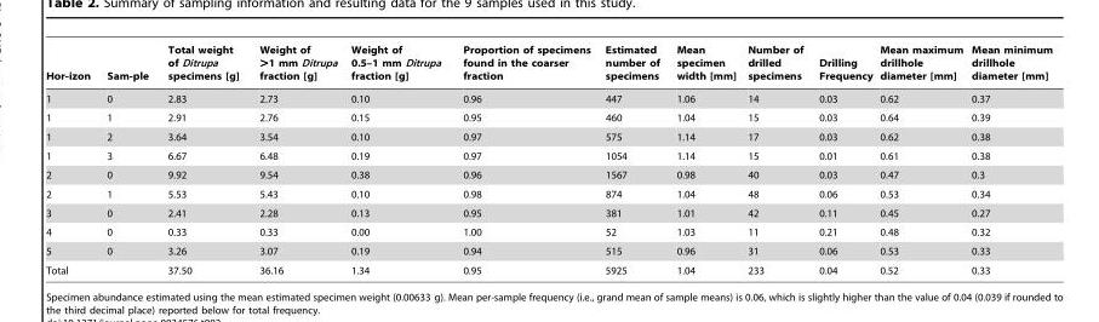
<table><thead><tr><td>Hor-izon</td><td>Sam-ple</td><td>Total weight of Ditrupa specimens [g]</td><td>Weight of &gt;1 mm Ditrupa fraction [g]</td><td>Weight of 0.5–1 mm Ditrupa fraction [g]</td><td>Proportion of specimens found in the coarser fraction</td><td>Estimated number of specimens</td><td>Mean specimen width [mm]</td><td>Number of drilled specimens</td><td>Drilling Frequency</td><td>Mean maximum drillhole diameter [mm]</td><td>Mean minimum drillhole diameter [mm]</td></tr></thead><tbody><tr><td>1</td><td>0</td><td>2.83</td><td>2.73</td><td>0.10</td><td>0.96</td><td>447</td><td>1.06</td><td>14</td><td>0.03</td><td>0.62</td><td>0.37</td></tr><tr><td>1</td><td>1</td><td>2.91</td><td>2.76</td><td>0.15</td><td>0.95</td><td>460</td><td>1.04</td><td>15</td><td>0.03</td><td>0.64</td><td>0.39</td></tr><tr><td>1</td><td>2</td><td>3.64</td><td>3.54</td><td>0.10</td><td>0.97</td><td>575</td><td>1.14</td><td>17</td><td>0.03</td><td>0.62</td><td>0.38</td></tr><tr><td>1</td><td>3</td><td>6.67</td><td>6.48</td><td>0.19</td><td>0.97</td><td>1054</td><td>1.14</td><td>15</td><td>0.01</td><td>0.61</td><td>0.38</td></tr><tr><td>2</td><td>0</td><td>9.92</td><td>9.54</td><td>0.38</td><td>0.96</td><td>1567</td><td>0.98</td><td>40</td><td>0.03</td><td>0.47</td><td>0.3</td></tr><tr><td>2</td><td>1</td><td>5.53</td><td>5.43</td><td>0.10</td><td>0.98</td><td>874</td><td>1.04</td><td>48</td><td>0.06</td><td>0.53</td><td>0.34</td></tr><tr><td>3</td><td>0</td><td>2.41</td><td>2.28</td><td>0.13</td><td>0.95</td><td>381</td><td>1.01</td><td>42</td><td>0.11</td><td>0.45</td><td>0.27</td></tr><tr><td>4</td><td>0</td><td>0.33</td><td>0.33</td><td>0.00</td><td>1.00</td><td>52</td><td>1.03</td><td>11</td><td>0.21</td><td>0.48</td><td>0.32</td></tr><tr><td>5</td><td>0</td><td>3.26</td><td>3.07</td><td>0.19</td><td>0.94</td><td>515</td><td>0.96</td><td>31</td><td>0.06</td><td>0.53</td><td>0.33</td></tr><tr><td>Total</td><td></td><td>37.50</td><td>36.16</td><td>1.34</td><td>0.95</td><td>5925</td><td>1.04</td><td>233</td><td>0.04</td><td>0.52</td><td>0.33</td></tr></tbody></table>